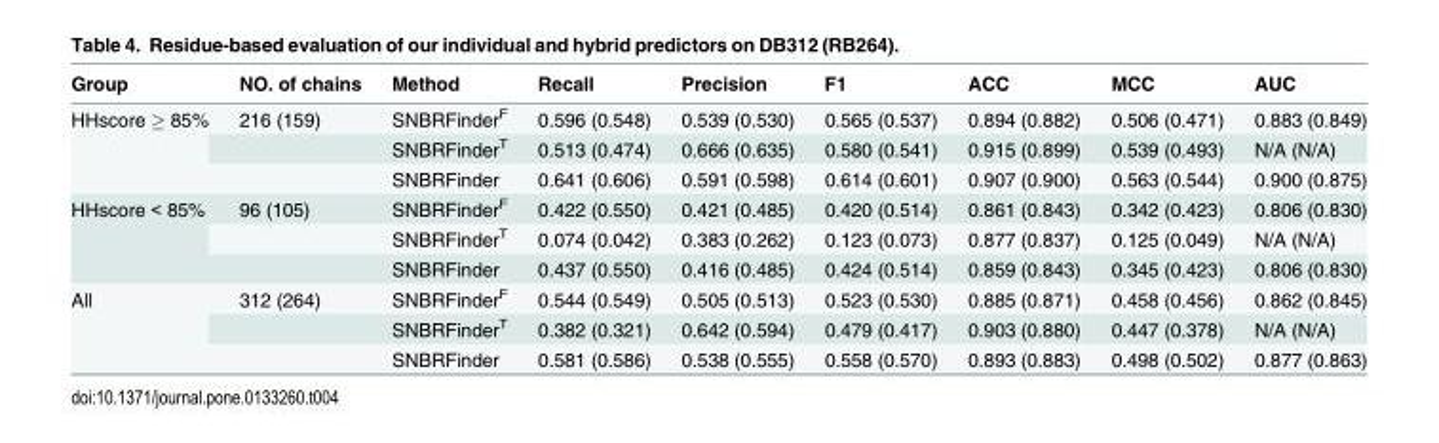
<table><thead><tr><td>Group</td><td>NO. of chains</td><td>Method</td><td>Recall</td><td>Precision</td><td>F1</td><td>ACC</td><td>MCC</td><td>AUC</td></tr></thead><tbody><tr><td rowspan="3">HHscore ≥ 85%</td><td>216 (159)</td><td>SNBRFinder<sup>F</sup></td><td>0.596 (0.548)</td><td>0.539 (0.530)</td><td>0.565 (0.537)</td><td>0.894 (0.882)</td><td>0.506 (0.471)</td><td>0.883 (0.849)</td></tr><tr><td></td><td>SNBRFinder<sup>T</sup></td><td>0.513 (0.474)</td><td>0.666 (0.635)</td><td>0.580 (0.541)</td><td>0.915 (0.899)</td><td>0.539 (0.493)</td><td>N/A (N/A)</td></tr><tr><td></td><td>SNBRFinder</td><td>0.641 (0.606)</td><td>0.591 (0.598)</td><td>0.614 (0.601)</td><td>0.907 (0.900)</td><td>0.563 (0.544)</td><td>0.900 (0.875)</td></tr><tr><td rowspan="3">HHscore &lt; 85%</td><td>96 (105)</td><td>SNBRFinder<sup>F</sup></td><td>0.422 (0.550)</td><td>0.421 (0.485)</td><td>0.420 (0.514)</td><td>0.861 (0.843)</td><td>0.342 (0.423)</td><td>0.806 (0.830)</td></tr><tr><td></td><td>SNBRFinder<sup>T</sup></td><td>0.074 (0.042)</td><td>0.383 (0.262)</td><td>0.123 (0.073)</td><td>0.877 (0.837)</td><td>0.125 (0.049)</td><td>N/A (N/A)</td></tr><tr><td></td><td>SNBRFinder</td><td>0.437 (0.550)</td><td>0.416 (0.485)</td><td>0.424 (0.514)</td><td>0.859 (0.843)</td><td>0.345 (0.423)</td><td>0.806 (0.830)</td></tr><tr><td rowspan="3">All</td><td>312 (264)</td><td>SNBRFinder<sup>F</sup></td><td>0.544 (0.549)</td><td>0.505 (0.513)</td><td>0.523 (0.530)</td><td>0.885 (0.871)</td><td>0.458 (0.456)</td><td>0.862 (0.845)</td></tr><tr><td></td><td>SNBRFinder<sup>T</sup></td><td>0.382 (0.321)</td><td>0.642 (0.594)</td><td>0.479 (0.417)</td><td>0.903 (0.880)</td><td>0.447 (0.378)</td><td>N/A (N/A)</td></tr><tr><td></td><td>SNBRFinder</td><td>0.581 (0.586)</td><td>0.538 (0.555)</td><td>0.558 (0.570)</td><td>0.893 (0.883)</td><td>0.498 (0.502)</td><td>0.877 (0.863)</td></tr></tbody></table>